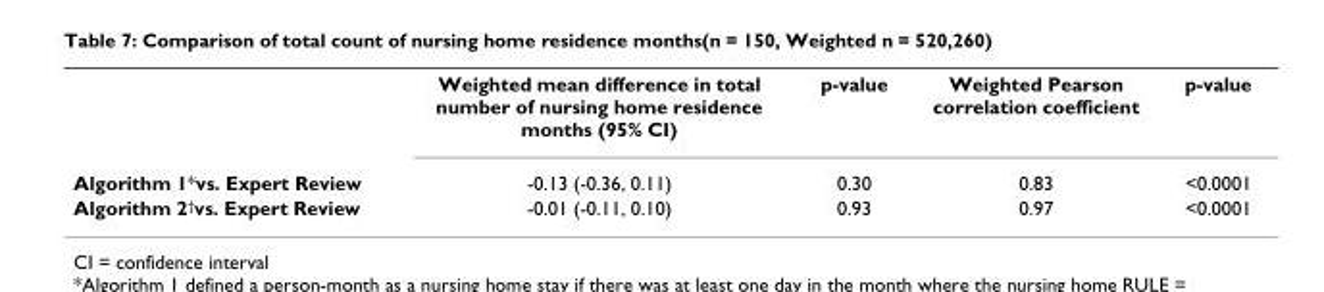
<table><thead><tr><td></td><td>Weighted mean difference in total number of nursing home residence months (95% CI)</td><td>p-value</td><td>Weighted Pearson correlation coefficient</td><td>p-value</td></tr></thead><tbody><tr><td>Algorithm 1*vs. Expert Review</td><td>-0.13 (-0.36, 0.11)</td><td>0.30</td><td>0.83</td><td>&lt;0.0001</td></tr><tr><td>Algorithm 2<sup>†</sup>vs. Expert Review</td><td>-0.01 (-0.11, 0.10)</td><td>0.93</td><td>0.97</td><td>&lt;0.0001</td></tr></tbody></table>